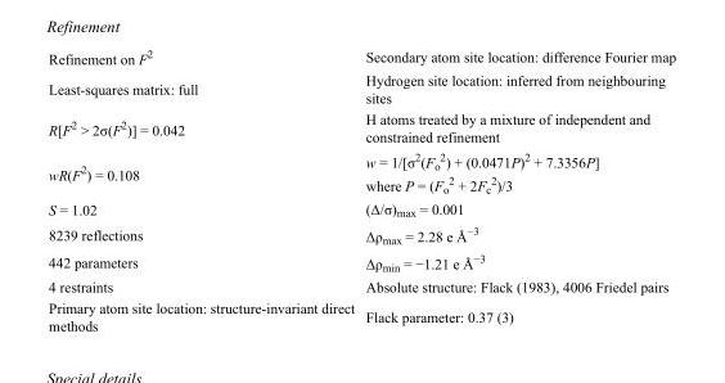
<table><tbody><tr><td>Refinement on F<sup>2</sup></td><td>Secondary atom site location: difference Fourier map</td></tr><tr><td>Least-squares matrix: full</td><td>Hydrogen site location: inferred from neighbouring sites</td></tr><tr><td>R[F<sup>2</sup> &gt; 2σ(F<sup>2</sup>)] = 0.042</td><td>H atoms treated by a mixture of independent and constrained refinement</td></tr><tr><td>wR(F<sup>2</sup>) = 0.108</td><td>w = 1/[σ<sup>2</sup>(F<sub>o</sub> <sup>2</sup>) + (0.0471P)<sup>2</sup> + 7.3356P] where P = (F<sub>o</sub> <sup>2</sup> + 2F<sub>c</sub> <sup>2</sup>)/3</td></tr><tr><td>S = 1.02</td><td>(Δ/σ)<sub>max</sub> = 0.001</td></tr><tr><td>8239 reflections</td><td>Δρ<sub>max</sub> = 2.28 e Å<sup>−3</sup></td></tr><tr><td>442 parameters</td><td>Δρ<sub>min</sub> = −1.21 e Å<sup>−3</sup></td></tr><tr><td>4 restraints</td><td>Absolute structure: Flack (1983), 4006 Friedel pairs</td></tr><tr><td>Primary atom site location: structure-invariant direct methods</td><td>Flack parameter: 0.37 (3)</td></tr></tbody></table>